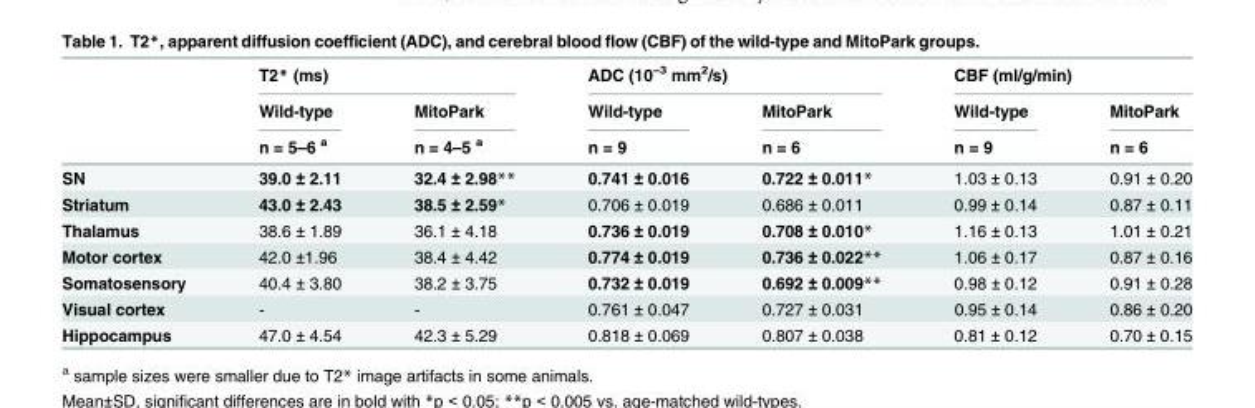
<table><thead><tr><td rowspan="3"></td><td colspan="2">T2* (ms)</td><td colspan="2">ADC (10<sup>−3</sup> mm<sup>2</sup>/s)</td><td colspan="2">CBF (ml/g/min)</td></tr><tr><td rowspan="2">Wild-type n = 5–6 <sup>a</sup></td><td rowspan="2">MitoPark n = 4–5 <sup>a</sup></td><td rowspan="2">Wild-type n = 9</td><td rowspan="2">MitoPark n = 6</td><td rowspan="2">Wild-type n = 9</td><td rowspan="2">MitoPark n = 6</td></tr><tr></tr></thead><tbody><tr><td>SN</td><td>39.0 ± 2.11</td><td>32.4 ± 2.98**</td><td>0.741 ± 0.016</td><td>0.722 ± 0.011*</td><td>1.03 ± 0.13</td><td>0.91 ± 0.20</td></tr><tr><td>Striatum</td><td>43.0 ± 2.43</td><td>38.5 ± 2.59*</td><td>0.706 ± 0.019</td><td>0.686 ± 0.011</td><td>0.99 ± 0.14</td><td>0.87 ± 0.11</td></tr><tr><td>Thalamus</td><td>38.6 ± 1.89</td><td>36.1 ± 4.18</td><td>0.736 ± 0.019</td><td>0.708 ± 0.010*</td><td>1.16 ± 0.13</td><td>1.01 ± 0.21</td></tr><tr><td>Motor cortex</td><td>42.0 ±1.96</td><td>38.4 ± 4.42</td><td>0.774 ± 0.019</td><td>0.736 ± 0.022**</td><td>1.06 ± 0.17</td><td>0.87 ± 0.16</td></tr><tr><td>Somatosensory</td><td>40.4 ± 3.80</td><td>38.2 ± 3.75</td><td>0.732 ± 0.019</td><td>0.692 ± 0.009**</td><td>0.98 ± 0.12</td><td>0.91 ± 0.28</td></tr><tr><td>Visual cortex</td><td>-</td><td>-</td><td>0.761 ± 0.047</td><td>0.727 ± 0.031</td><td>0.95 ± 0.14</td><td>0.86 ± 0.20</td></tr><tr><td>Hippocampus</td><td>47.0 ± 4.54</td><td>42.3 ± 5.29</td><td>0.818 ± 0.069</td><td>0.807 ± 0.038</td><td>0.81 ± 0.12</td><td>0.70 ± 0.15</td></tr></tbody></table>